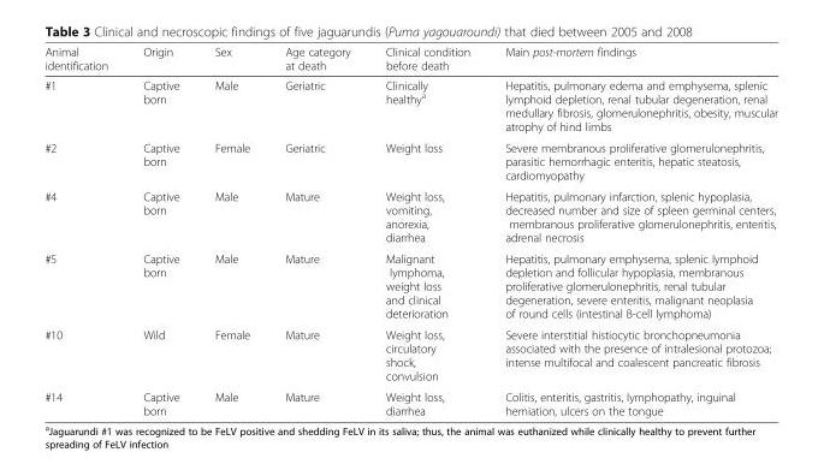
<table><thead><tr><td>Animal identification</td><td>Origin</td><td>Sex</td><td>Age category at death</td><td>Clinical condition before death</td><td>Main post-mortem findings</td></tr></thead><tbody><tr><td>#1</td><td>Captive born</td><td>Male</td><td>Geriatric</td><td>Clinically healthy<sup>a</sup></td><td>Hepatitis, pulmonary edema and emphysema, splenic lymphoid depletion, renal tubular degeneration, renal medullary fibrosis, glomerulonephritis, obesity, muscular atrophy of hind limbs</td></tr><tr><td>#2</td><td>Captive born</td><td>Female</td><td>Geriatric</td><td>Weight loss</td><td>Severe membranous proliferative glomerulonephritis, parasitic hemorrhagic enteritis, hepatic steatosis, cardiomyopathy</td></tr><tr><td>#4</td><td>Captive born</td><td>Male</td><td>Mature</td><td>Weight loss, vomiting, anorexia, diarrhea</td><td>Hepatitis, pulmonary infarction, splenic hypoplasia, decreased number and size of spleen germinal centers, membranous proliferative glomerulonephritis, enteritis, adrenal necrosis</td></tr><tr><td>#5</td><td>Captive born</td><td>Male</td><td>Mature</td><td>Malignant lymphoma, weight loss and clinical deterioration</td><td>Hepatitis, pulmonary emphysema, splenic lymphoid depletion and follicular hypoplasia, membranous proliferative glomerulonephritis, renal tubular degeneration, severe enteritis, malignant neoplasia of round cells (intestinal B-cell lymphoma)</td></tr><tr><td>#10</td><td>Wild</td><td>Female</td><td>Mature</td><td>Weight loss, circulatory shock, convulsion</td><td>Severe interstitial histiocytic bronchopneumonia associated with the presence of intralesional protozoa; intense multifocal and coalescent pancreatic fibrosis</td></tr><tr><td>#14</td><td>Captive born</td><td>Male</td><td>Mature</td><td>Weight loss, diarrhea</td><td>Colitis, enteritis, gastritis, lymphopathy, inguinal herniation, ulcers on the tongue</td></tr></tbody></table>